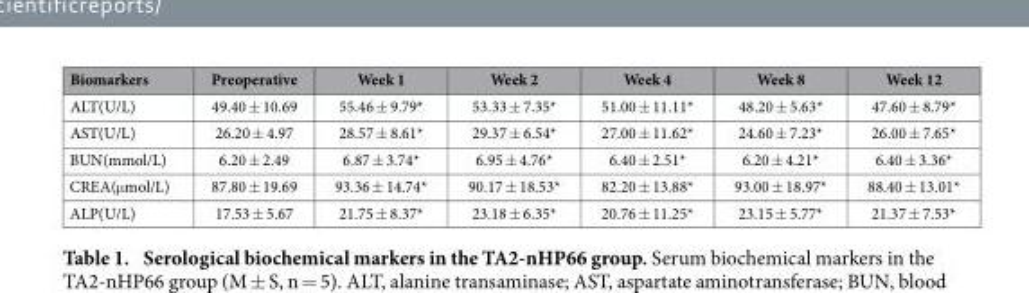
<table><thead><tr><td>Biomarkers</td><td>Preoperative</td><td>Week 1</td><td>Week 2</td><td>Week 4</td><td>Week 8</td><td>Week 12</td></tr></thead><tbody><tr><td>ALT(U/L)</td><td>49.40 ± 10.69</td><td>55.46 ± 9.79*</td><td>53.33 ± 7.35*</td><td>51.00 ± 11.11*</td><td>48.20 ± 5.63*</td><td>47.60 ± 8.79*</td></tr><tr><td>AST(U/L)</td><td>26.20 ± 4.97</td><td>28.57 ± 8.61*</td><td>29.37 ± 6.54*</td><td>27.00 ± 11.62*</td><td>24.60 ± 7.23*</td><td>26.00 ± 7.65*</td></tr><tr><td>BUN(mmol/L)</td><td>6.20 ± 2.49</td><td>6.87 ± 3.74*</td><td>6.95 ± 4.76*</td><td>6.40 ± 2.51*</td><td>6.20 ± 4.21*</td><td>6.40 ± 3.36*</td></tr><tr><td>CREA(μ mol/L)</td><td>87.80 ± 19.69</td><td>93.36 ± 14.74*</td><td>90.17 ± 18.53*</td><td>82.20 ± 13.88*</td><td>93.00 ± 18.97*</td><td>88.40 ± 13.01*</td></tr><tr><td>ALP(U/L)</td><td>17.53 ± 5.67</td><td>21.75 ± 8.37*</td><td>23.18 ± 6.35*</td><td>20.76 ± 11.25*</td><td>23.15 ± 5.77*</td><td>21.37 ± 7.53*</td></tr></tbody></table>